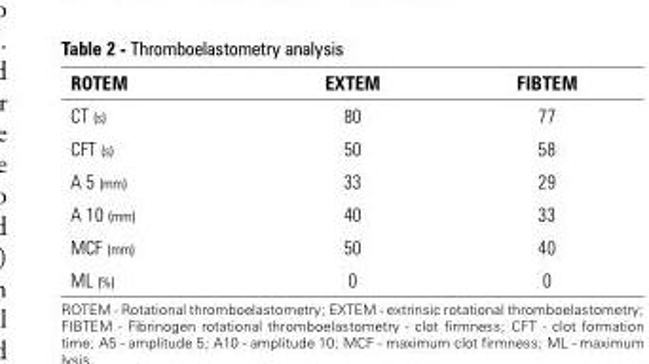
<table><thead><tr><td>ROTEM</td><td>EXTEM</td><td>FIBTEM</td></tr></thead><tbody><tr><td>CT (s)</td><td>80</td><td>77</td></tr><tr><td>CFT (s)</td><td>50</td><td>58</td></tr><tr><td>A 5 (mm)</td><td>33</td><td>29</td></tr><tr><td>A 10 (mm)</td><td>40</td><td>33</td></tr><tr><td>MCF (mm)</td><td>50</td><td>40</td></tr><tr><td>ML (%)</td><td>0</td><td>0</td></tr></tbody></table>